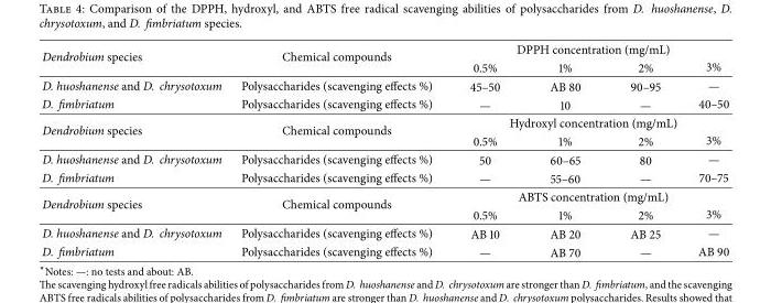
<table><tbody><tr><td rowspan="2">Dendrobium species</td><td rowspan="2">Chemical compounds</td><td colspan="4">DPPH concentration (mg/mL)</td></tr><tr><td>0.5%</td><td>1%</td><td>2%</td><td>3%</td></tr><tr><td>D. huoshanense and D. chrysotoxum</td><td>Polysaccharides (scavenging effects %)</td><td>45–50</td><td>AB 80</td><td>90–95</td><td>—</td></tr><tr><td>D. fimbriatum</td><td>Polysaccharides (scavenging effects %)</td><td>—</td><td>10</td><td>—</td><td>40–50</td></tr><tr><td rowspan="2">Dendrobium species</td><td rowspan="2">Chemical compounds</td><td colspan="4">Hydroxyl concentration (mg/mL)</td></tr><tr><td>0.5%</td><td>1%</td><td>2%</td><td>3%</td></tr><tr><td>D. huoshanense and D. chrysotoxum</td><td>Polysaccharides (scavenging effects %)</td><td>50</td><td>60–65</td><td>80</td><td>—</td></tr><tr><td>D. fimbriatum</td><td>Polysaccharides (scavenging effects %)</td><td>—</td><td>55–60</td><td>—</td><td>70–75</td></tr><tr><td rowspan="2">Dendrobium species</td><td rowspan="2">Chemical compounds</td><td colspan="4">ABTS concentration (mg/mL)</td></tr><tr><td>0.5%</td><td>1%</td><td>2%</td><td>3%</td></tr><tr><td>D. huoshanense and D. chrysotoxum</td><td>Polysaccharides (scavenging effects %)</td><td>AB 10</td><td>AB 20</td><td>AB 25</td><td>—</td></tr><tr><td>D. fimbriatum</td><td>Polysaccharides (scavenging effects %)</td><td>—</td><td>AB 70</td><td>—</td><td>AB 90</td></tr></tbody></table>